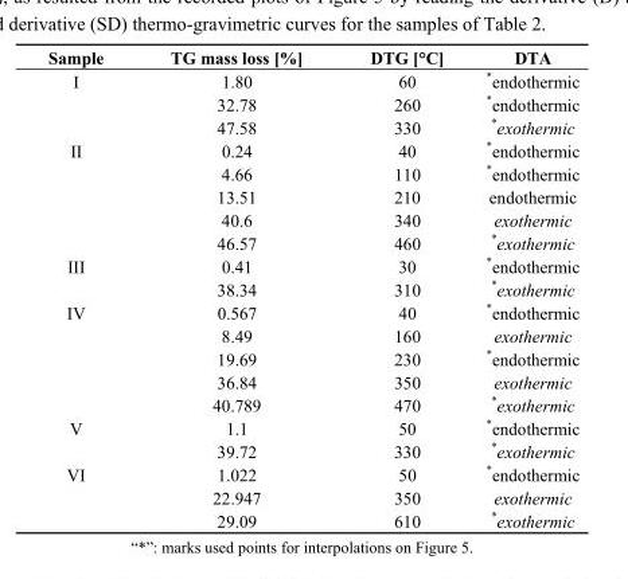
<table><thead><tr><td>Sample</td><td>TG mass loss [%]</td><td>DTG [°C]</td><td>DTA</td></tr></thead><tbody><tr><td rowspan="3">I</td><td>1.80</td><td>60</td><td>*endothermic</td></tr><tr><td>32.78</td><td>260</td><td>*endothermic</td></tr><tr><td>47.58</td><td>330</td><td>*exothermic</td></tr><tr><td rowspan="5">II</td><td>0.24</td><td>40</td><td>*endothermic</td></tr><tr><td>4.66</td><td>110</td><td>*endothermic</td></tr><tr><td>13.51</td><td>210</td><td>endothermic</td></tr><tr><td>40.6</td><td>340</td><td>exothermic</td></tr><tr><td>46.57</td><td>460</td><td>*exothermic</td></tr><tr><td rowspan="2">III</td><td>0.41</td><td>30</td><td>*endothermic</td></tr><tr><td>38.34</td><td>310</td><td>*exothermic</td></tr><tr><td rowspan="5">IV</td><td>0.567</td><td>40</td><td>*endothermic</td></tr><tr><td>8.49</td><td>160</td><td>exothermic</td></tr><tr><td>19.69</td><td>230</td><td>*endothermic</td></tr><tr><td>36.84</td><td>350</td><td>exothermic</td></tr><tr><td>40.789</td><td>470</td><td>*exothermic</td></tr><tr><td rowspan="2">V</td><td>1.1</td><td>50</td><td>*endothermic</td></tr><tr><td>39.72</td><td>330</td><td>*exothermic</td></tr><tr><td rowspan="3">VI</td><td>1.022</td><td>50</td><td>*endothermic</td></tr><tr><td>22.947</td><td>350</td><td>exothermic</td></tr><tr><td>29.09</td><td>610</td><td>*exothermic</td></tr></tbody></table>